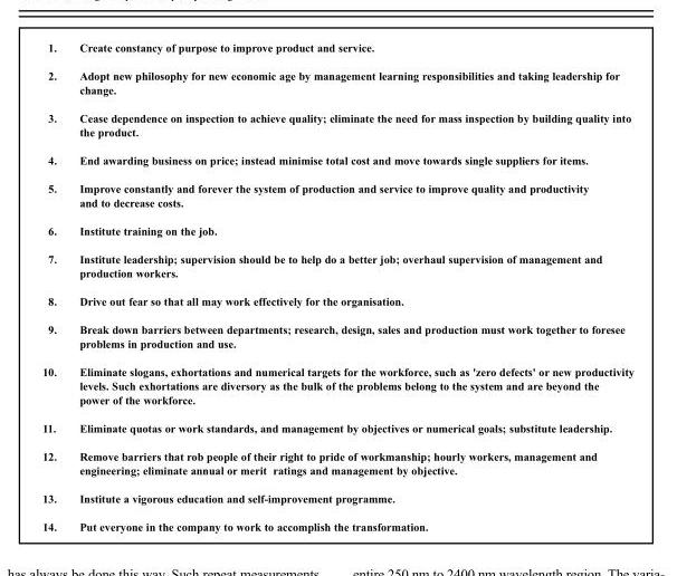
<table><tbody><tr><td>1.</td><td>Create constancy of purpose to improve product and service.</td></tr><tr><td>2.</td><td>Adopt new philosophy for new economic age by management learning responsibilities and taking leadership for change.</td></tr><tr><td>3.</td><td>Cease dependence on inspection to achieve quality; eliminate the need for mass inspection by building quality into the product.</td></tr><tr><td>4.</td><td>End awarding business on price; instead minimise total cost and move towards single suppliers for items.</td></tr><tr><td>5.</td><td>Improve constantly and forever the system of production and service to improve quality and productivity and to decrease costs.</td></tr><tr><td>6.</td><td>Institute training on the job.</td></tr><tr><td>7.</td><td>Institute leadership; supervision should be to help do a better job; overhaul supervision of management and production workers.</td></tr><tr><td>8.</td><td>Drive out fear so that all may work effectively for the organisation.</td></tr><tr><td>9.</td><td>Break down barriers between departments; research, design, sales and production must work together to foresee problems in production and use.</td></tr><tr><td>10.</td><td>Eliminate slogans, exhortations and numerical targets for the workforce, such as &#x27;zero defects&#x27; or new productivity levels. Such exhortations are diversory as the bulk of the problems belong to the system and are beyond the power of the workforce.</td></tr><tr><td>11.</td><td>Eliminate quotas or work standards, and management by objectives or numerical goals; substitute leadership.</td></tr><tr><td>12.</td><td>Remove barriers that rob people of their right to pride of workmanship; hourly workers, management and engineering; eliminate annual or merit ratings and management by objective.</td></tr><tr><td>13.</td><td>Institute a vigorous education and self-improvement programme.</td></tr><tr><td>14.</td><td>Put everyone in the company to work to accomplish the transformation.</td></tr></tbody></table>